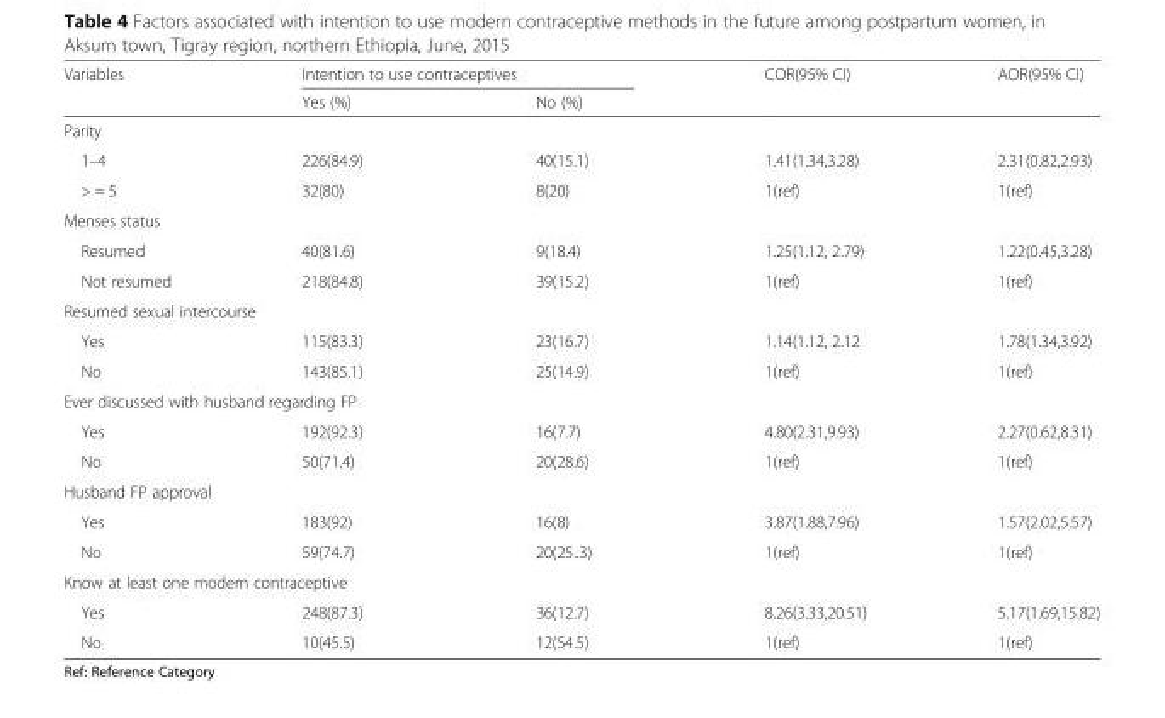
<table><thead><tr><td rowspan="2">Variables</td><td colspan="2">Intention to use contraceptives</td><td rowspan="2">COR(95% CI)</td><td rowspan="2">AOR(95% CI)</td></tr><tr><td>Yes (%)</td><td>No (%)</td></tr></thead><tbody><tr><td colspan="5">Parity</td></tr><tr><td>1–4</td><td>226(84.9)</td><td>40(15.1)</td><td>1.41(1.34,3.28)</td><td>2.31(0.82,2.93)</td></tr><tr><td>&gt; = 5</td><td>32(80)</td><td>8(20)</td><td>1(ref)</td><td>1(ref)</td></tr><tr><td colspan="5">Menses status</td></tr><tr><td>Resumed</td><td>40(81.6)</td><td>9(18.4)</td><td>1.25(1.12, 2.79)</td><td>1.22(0.45,3.28)</td></tr><tr><td>Not resumed</td><td>218(84.8)</td><td>39(15.2)</td><td>1(ref)</td><td>1(ref)</td></tr><tr><td colspan="5">Resumed sexual intercourse</td></tr><tr><td>Yes</td><td>115(83.3)</td><td>23(16.7)</td><td>1.14(1.12, 2.12</td><td>1.78(1.34,3.92)</td></tr><tr><td>No</td><td>143(85.1)</td><td>25(14.9)</td><td>1(ref)</td><td>1(ref)</td></tr><tr><td colspan="5">Ever discussed with husband regarding FP</td></tr><tr><td>Yes</td><td>192(92.3)</td><td>16(7.7)</td><td>4.80(2.31,9.93)</td><td>2.27(0.62,8.31)</td></tr><tr><td>No</td><td>50(71.4)</td><td>20(28.6)</td><td>1(ref)</td><td>1(ref)</td></tr><tr><td colspan="5">Husband FP approval</td></tr><tr><td>Yes</td><td>183(92)</td><td>16(8)</td><td>3.87(1.88,7.96)</td><td>1.57(2.02,5.57)</td></tr><tr><td>No</td><td>59(74.7)</td><td>20(25..3)</td><td>1(ref)</td><td>1(ref)</td></tr><tr><td colspan="5">Know at least one modern contraceptive</td></tr><tr><td>Yes</td><td>248(87.3)</td><td>36(12.7)</td><td>8.26(3.33,20.51)</td><td>5.17(1.69,15.82)</td></tr><tr><td>No</td><td>10(45.5)</td><td>12(54.5)</td><td>1(ref)</td><td>1(ref)</td></tr></tbody></table>